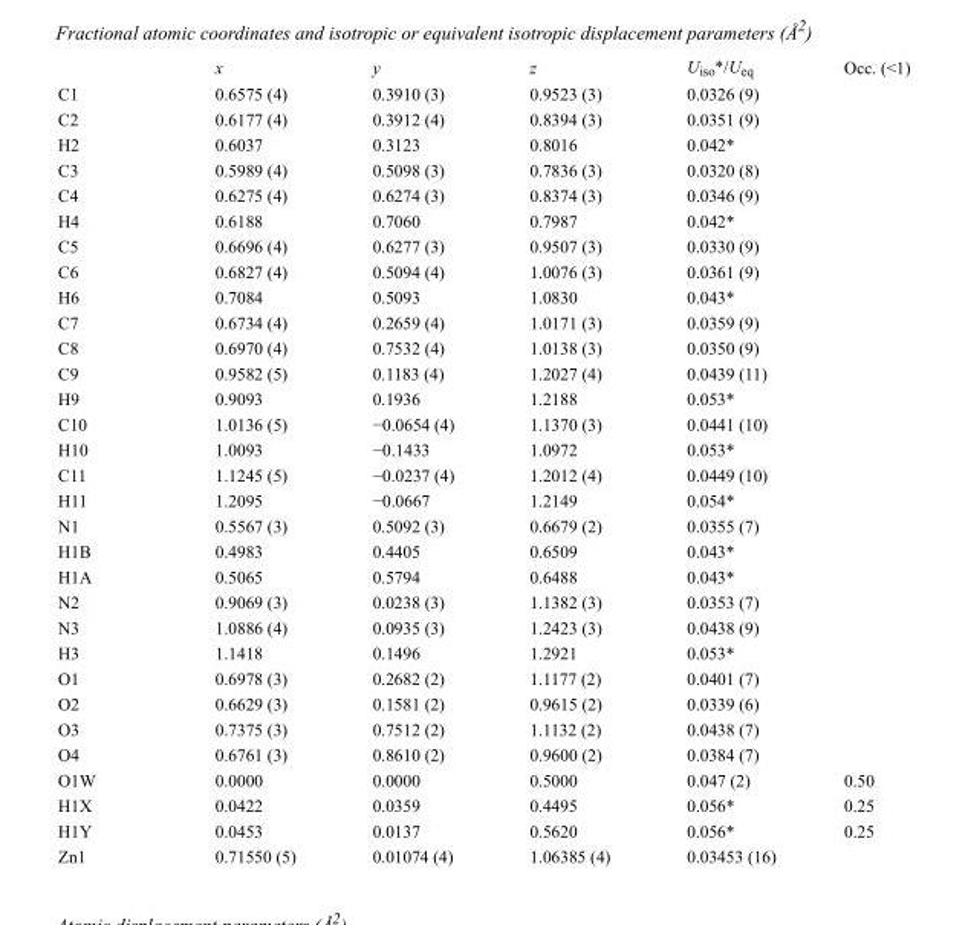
<table><thead><tr><td></td><td>x</td><td>y</td><td>z</td><td>U<sub>iso</sub>*/U<sub>eq</sub></td><td>Occ. (&lt;1)</td></tr></thead><tbody><tr><td>C1</td><td>0.6575 (4)</td><td>0.3910 (3)</td><td>0.9523 (3)</td><td>0.0326 (9)</td><td></td></tr><tr><td>C2</td><td>0.6177 (4)</td><td>0.3912 (4)</td><td>0.8394 (3)</td><td>0.0351 (9)</td><td></td></tr><tr><td>H2</td><td>0.6037</td><td>0.3123</td><td>0.8016</td><td>0.042*</td><td></td></tr><tr><td>C3</td><td>0.5989 (4)</td><td>0.5098 (3)</td><td>0.7836 (3)</td><td>0.0320 (8)</td><td></td></tr><tr><td>C4</td><td>0.6275 (4)</td><td>0.6274 (3)</td><td>0.8374 (3)</td><td>0.0346 (9)</td><td></td></tr><tr><td>H4</td><td>0.6188</td><td>0.7060</td><td>0.7987</td><td>0.042*</td><td></td></tr><tr><td>C5</td><td>0.6696 (4)</td><td>0.6277 (3)</td><td>0.9507 (3)</td><td>0.0330 (9)</td><td></td></tr><tr><td>C6</td><td>0.6827 (4)</td><td>0.5094 (4)</td><td>1.0076 (3)</td><td>0.0361 (9)</td><td></td></tr><tr><td>H6</td><td>0.7084</td><td>0.5093</td><td>1.0830</td><td>0.043*</td><td></td></tr><tr><td>C7</td><td>0.6734 (4)</td><td>0.2659 (4)</td><td>1.0171 (3)</td><td>0.0359 (9)</td><td></td></tr><tr><td>C8</td><td>0.6970 (4)</td><td>0.7532 (4)</td><td>1.0138 (3)</td><td>0.0350 (9)</td><td></td></tr><tr><td>C9</td><td>0.9582 (5)</td><td>0.1183 (4)</td><td>1.2027 (4)</td><td>0.0439 (11)</td><td></td></tr><tr><td>H9</td><td>0.9093</td><td>0.1936</td><td>1.2188</td><td>0.053*</td><td></td></tr><tr><td>C10</td><td>1.0136 (5)</td><td>−0.0654 (4)</td><td>1.1370 (3)</td><td>0.0441 (10)</td><td></td></tr><tr><td>H10</td><td>1.0093</td><td>−0.1433</td><td>1.0972</td><td>0.053*</td><td></td></tr><tr><td>C11</td><td>1.1245 (5)</td><td>−0.0237 (4)</td><td>1.2012 (4)</td><td>0.0449 (10)</td><td></td></tr><tr><td>H11</td><td>1.2095</td><td>−0.0667</td><td>1.2149</td><td>0.054*</td><td></td></tr><tr><td>N1</td><td>0.5567 (3)</td><td>0.5092 (3)</td><td>0.6679 (2)</td><td>0.0355 (7)</td><td></td></tr><tr><td>H1B</td><td>0.4983</td><td>0.4405</td><td>0.6509</td><td>0.043*</td><td></td></tr><tr><td>H1A</td><td>0.5065</td><td>0.5794</td><td>0.6488</td><td>0.043*</td><td></td></tr><tr><td>N2</td><td>0.9069 (3)</td><td>0.0238 (3)</td><td>1.1382 (3)</td><td>0.0353 (7)</td><td></td></tr><tr><td>N3</td><td>1.0886 (4)</td><td>0.0935 (3)</td><td>1.2423 (3)</td><td>0.0438 (9)</td><td></td></tr><tr><td>H3</td><td>1.1418</td><td>0.1496</td><td>1.2921</td><td>0.053*</td><td></td></tr><tr><td>O1</td><td>0.6978 (3)</td><td>0.2682 (2)</td><td>1.1177 (2)</td><td>0.0401 (7)</td><td></td></tr><tr><td>O2</td><td>0.6629 (3)</td><td>0.1581 (2)</td><td>0.9615 (2)</td><td>0.0339 (6)</td><td></td></tr><tr><td>O3</td><td>0.7375 (3)</td><td>0.7512 (2)</td><td>1.1132 (2)</td><td>0.0438 (7)</td><td></td></tr><tr><td>O4</td><td>0.6761 (3)</td><td>0.8610 (2)</td><td>0.9600 (2)</td><td>0.0384 (7)</td><td></td></tr><tr><td>O1W</td><td>0.0000</td><td>0.0000</td><td>0.5000</td><td>0.047 (2)</td><td>0.50</td></tr><tr><td>H1X</td><td>0.0422</td><td>0.0359</td><td>0.4495</td><td>0.056*</td><td>0.25</td></tr><tr><td>H1Y</td><td>0.0453</td><td>0.0137</td><td>0.5620</td><td>0.056*</td><td>0.25</td></tr><tr><td>Zn1</td><td>0.71550 (5)</td><td>0.01074 (4)</td><td>1.06385 (4)</td><td>0.03453 (16)</td><td></td></tr></tbody></table>